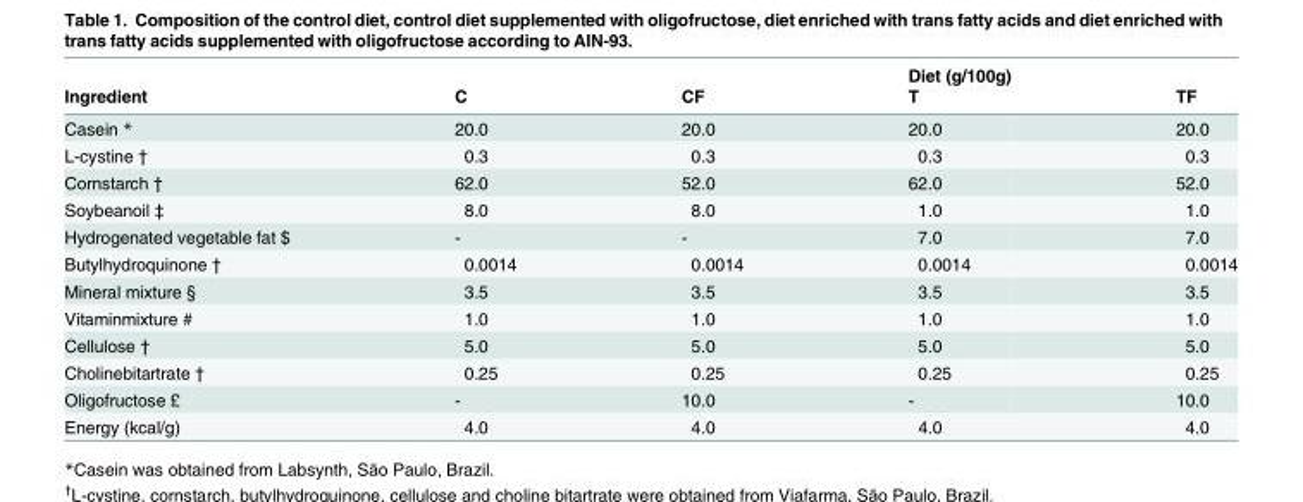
<table><thead><tr><td rowspan="2">Ingredient</td><td rowspan="2">C</td><td rowspan="2">CF</td><td rowspan="2">Diet (g/100g) T</td><td rowspan="2">TF</td></tr><tr></tr></thead><tbody><tr><td>Casein *</td><td>20.0</td><td>20.0</td><td>20.0</td><td>20.0</td></tr><tr><td>L-cystine †</td><td>0.3</td><td>0.3</td><td>0.3</td><td>0.3</td></tr><tr><td>Cornstarch †</td><td>62.0</td><td>52.0</td><td>62.0</td><td>52.0</td></tr><tr><td>Soybeanoil ‡</td><td>8.0</td><td>8.0</td><td>1.0</td><td>1.0</td></tr><tr><td>Hydrogenated vegetable fat $</td><td>-</td><td>-</td><td>7.0</td><td>7.0</td></tr><tr><td>Butylhydroquinone †</td><td>0.0014</td><td>0.0014</td><td>0.0014</td><td>0.0014</td></tr><tr><td>Mineral mixture §</td><td>3.5</td><td>3.5</td><td>3.5</td><td>3.5</td></tr><tr><td>Vitaminmixture #</td><td>1.0</td><td>1.0</td><td>1.0</td><td>1.0</td></tr><tr><td>Cellulose †</td><td>5.0</td><td>5.0</td><td>5.0</td><td>5.0</td></tr><tr><td>Cholinebitartrate †</td><td>0.25</td><td>0.25</td><td>0.25</td><td>0.25</td></tr><tr><td>Oligofructose £</td><td>-</td><td>10.0</td><td>-</td><td>10.0</td></tr><tr><td>Energy (kcal/g)</td><td>4.0</td><td>4.0</td><td>4.0</td><td>4.0</td></tr></tbody></table>